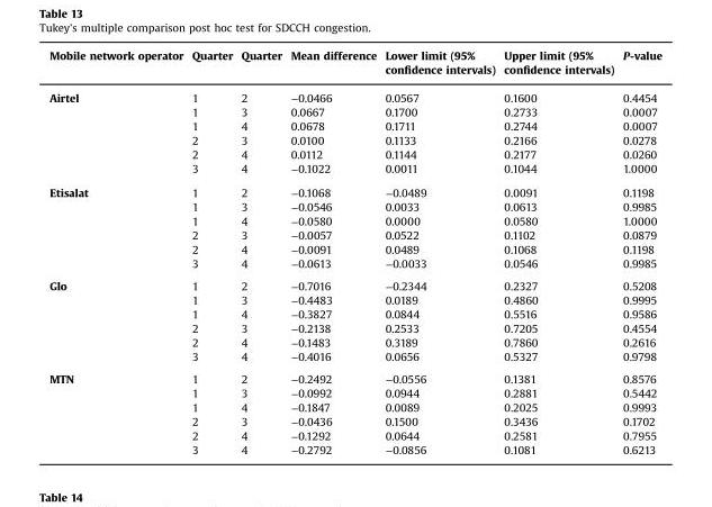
<table><thead><tr><td>Mobile network operator</td><td>Quarter</td><td>Quarter</td><td>Mean difference</td><td>Lower limit (95% confidence intervals)</td><td>Upper limit (95% confidence intervals)</td><td>P-value</td></tr></thead><tbody><tr><td rowspan="6">Airtel</td><td>1</td><td>2</td><td>−0.0466</td><td>0.0567</td><td>0.1600</td><td>0.4454</td></tr><tr><td>1</td><td>3</td><td>0.0667</td><td>0.1700</td><td>0.2733</td><td>0.0007</td></tr><tr><td>1</td><td>4</td><td>0.0678</td><td>0.1711</td><td>0.2744</td><td>0.0007</td></tr><tr><td>2</td><td>3</td><td>0.0100</td><td>0.1133</td><td>0.2166</td><td>0.0278</td></tr><tr><td>2</td><td>4</td><td>0.0112</td><td>0.1144</td><td>0.2177</td><td>0.0260</td></tr><tr><td>3</td><td>4</td><td>−0.1022</td><td>0.0011</td><td>0.1044</td><td>1.0000</td></tr><tr><td rowspan="6">Etisalat</td><td>1</td><td>2</td><td>−0.1068</td><td>−0.0489</td><td>0.0091</td><td>0.1198</td></tr><tr><td>1</td><td>3</td><td>−0.0546</td><td>0.0033</td><td>0.0613</td><td>0.9985</td></tr><tr><td>1</td><td>4</td><td>−0.0580</td><td>0.0000</td><td>0.0580</td><td>1.0000</td></tr><tr><td>2</td><td>3</td><td>−0.0057</td><td>0.0522</td><td>0.1102</td><td>0.0879</td></tr><tr><td>2</td><td>4</td><td>−0.0091</td><td>0.0489</td><td>0.1068</td><td>0.1198</td></tr><tr><td>3</td><td>4</td><td>−0.0613</td><td>−0.0033</td><td>0.0546</td><td>0.9985</td></tr><tr><td rowspan="6">Glo</td><td>1</td><td>2</td><td>−0.7016</td><td>−0.2344</td><td>0.2327</td><td>0.5208</td></tr><tr><td>1</td><td>3</td><td>−0.4483</td><td>0.0189</td><td>0.4860</td><td>0.9995</td></tr><tr><td>1</td><td>4</td><td>−0.3827</td><td>0.0844</td><td>0.5516</td><td>0.9586</td></tr><tr><td>2</td><td>3</td><td>−0.2138</td><td>0.2533</td><td>0.7205</td><td>0.4554</td></tr><tr><td>2</td><td>4</td><td>−0.1483</td><td>0.3189</td><td>0.7860</td><td>0.2616</td></tr><tr><td>3</td><td>4</td><td>−0.4016</td><td>0.0656</td><td>0.5327</td><td>0.9798</td></tr><tr><td rowspan="6">MTN</td><td>1</td><td>2</td><td>−0.2492</td><td>−0.0556</td><td>0.1381</td><td>0.8576</td></tr><tr><td>1</td><td>3</td><td>−0.0992</td><td>0.0944</td><td>0.2881</td><td>0.5442</td></tr><tr><td>1</td><td>4</td><td>−0.1847</td><td>0.0089</td><td>0.2025</td><td>0.9993</td></tr><tr><td>2</td><td>3</td><td>−0.0436</td><td>0.1500</td><td>0.3436</td><td>0.1702</td></tr><tr><td>2</td><td>4</td><td>−0.1292</td><td>0.0644</td><td>0.2581</td><td>0.7955</td></tr><tr><td>3</td><td>4</td><td>−0.2792</td><td>−0.0856</td><td>0.1081</td><td>0.6213</td></tr></tbody></table>